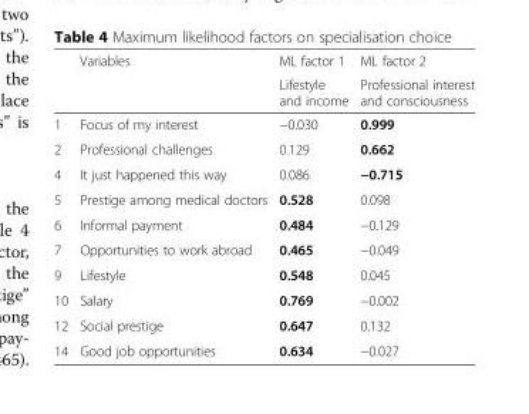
<table><thead><tr><td rowspan="2"></td><td rowspan="2">Variables</td><td rowspan="2">ML factor 1 Lifestyle and income</td><td rowspan="2">ML factor 2 Professional interest and consciousness</td></tr><tr></tr></thead><tbody><tr><td>1</td><td>Focus of my interest</td><td>−0.030</td><td>0.999</td></tr><tr><td>2</td><td>Professional challenges</td><td>0.129</td><td>0.662</td></tr><tr><td>4</td><td>It just happened this way</td><td>0.086</td><td>−0.715</td></tr><tr><td>5</td><td>Prestige among medical doctors</td><td>0.528</td><td>0.098</td></tr><tr><td>6</td><td>Informal payment</td><td>0.484</td><td>−0.129</td></tr><tr><td>7</td><td>Opportunities to work abroad</td><td>0.465</td><td>−0.049</td></tr><tr><td>9</td><td>Lifestyle</td><td>0.548</td><td>0.045</td></tr><tr><td>10</td><td>Salary</td><td>0.769</td><td>−0.002</td></tr><tr><td>12</td><td>Social prestige</td><td>0.647</td><td>0.132</td></tr><tr><td>14</td><td>Good job opportunities</td><td>0.634</td><td>−0.027</td></tr></tbody></table>